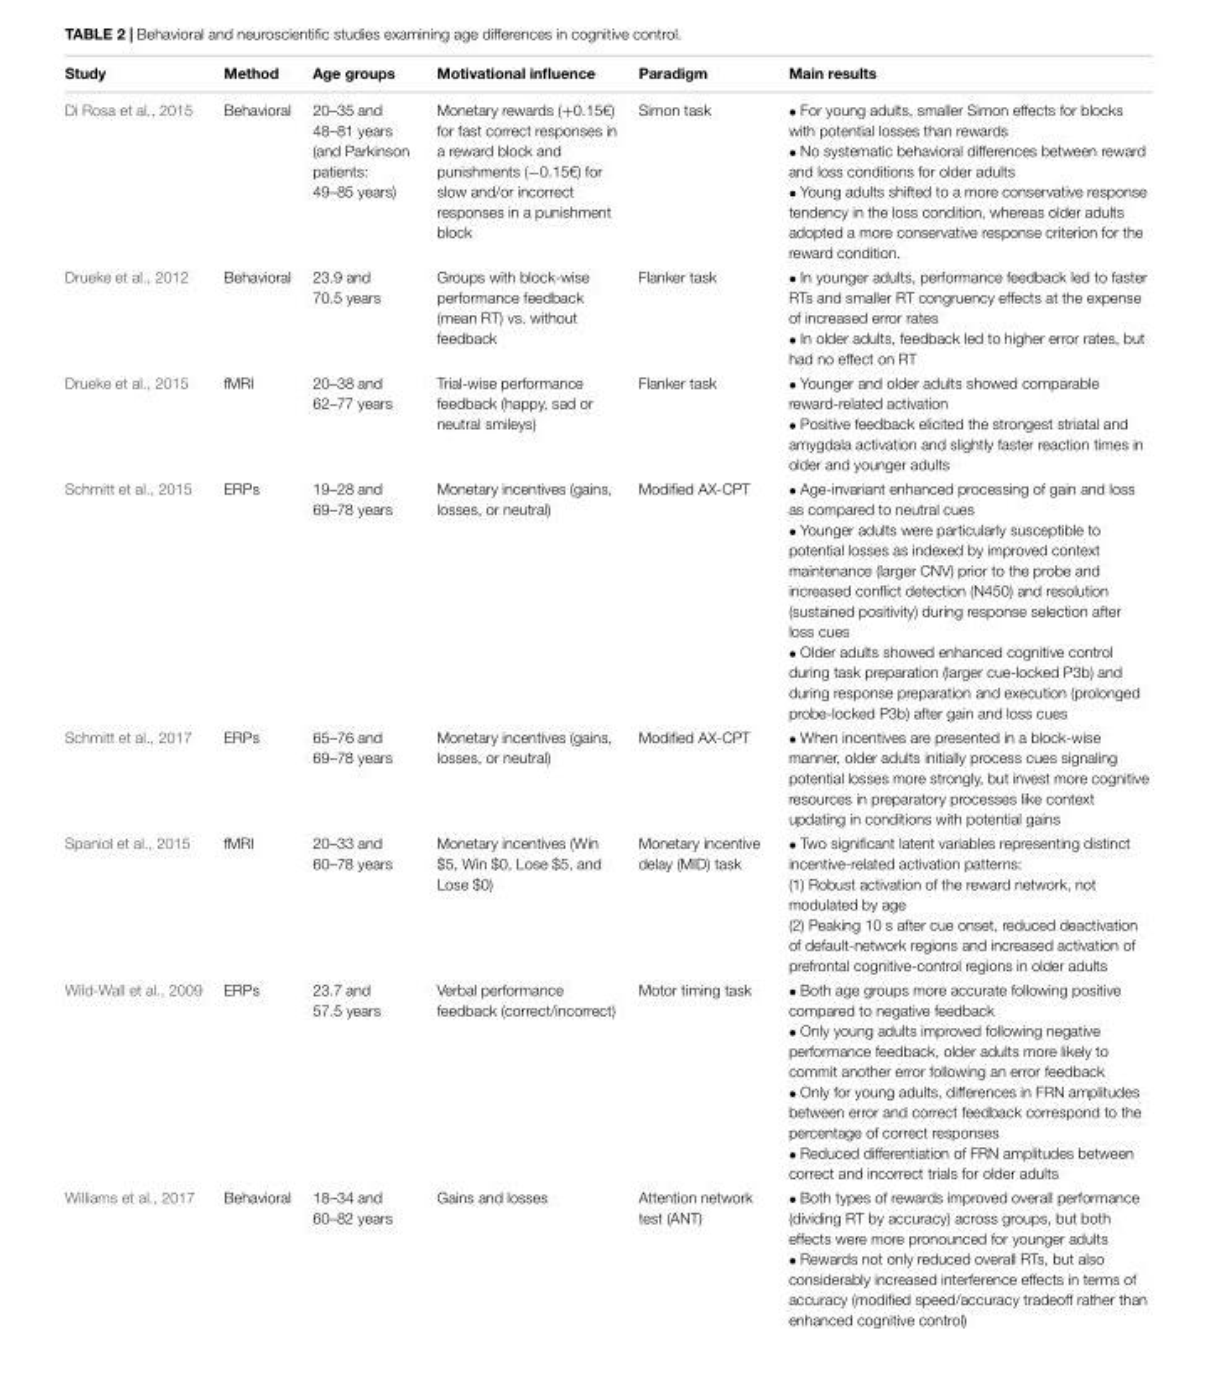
<table><thead><tr><td>Study</td><td>Method</td><td>Age groups</td><td>Motivational influence</td><td>Paradigm</td><td>Main results</td></tr></thead><tbody><tr><td>Di Rosa et al., 2015</td><td>Behavioral</td><td>20–35 and 48–81 years (and Parkinson patients: 49–85 years)</td><td>Monetary rewards (+0.15€) for fast correct responses in a reward block and punishments (−0.15€) for slow and/or incorrect responses in a punishment block</td><td>Simon task</td><td>• For young adults, smaller Simon effects for blocks with potential losses than rewards • No systematic behavioral differences between reward and loss conditions for older adults • Young adults shifted to a more conservative response tendency in the loss condition, whereas older adults adopted a more conservative response criterion for the reward condition.</td></tr><tr><td>Drueke et al., 2012</td><td>Behavioral</td><td>23.9 and 70.5 years</td><td>Groups with block-wise performance feedback (mean RT) vs. without feedback</td><td>Flanker task</td><td>• In younger adults, performance feedback led to faster RTs and smaller RT congruency effects at the expense of increased error rates • In older adults, feedback led to higher error rates, but had no effect on RT</td></tr><tr><td>Drueke et al., 2015</td><td>fMRI</td><td>20–38 and 62–77 years</td><td>Trial-wise performance feedback (happy, sad or neutral smileys)</td><td>Flanker task</td><td>• Younger and older adults showed comparable reward-related activation • Positive feedback elicited the strongest striatal and amygdala activation and slightly faster reaction times in older and younger adults</td></tr><tr><td>Schmitt et al., 2015</td><td>ERPs</td><td>19–28 and 69–78 years</td><td>Monetary incentives (gains, losses, or neutral)</td><td>Modified AX-CPT</td><td>• Age-invariant enhanced processing of gain and loss as compared to neutral cues • Younger adults were particularly susceptible to potential losses as indexed by improved context maintenance (larger CNV) prior to the probe and increased conflict detection (N450) and resolution (sustained positivity) during response selection after loss cues • Older adults showed enhanced cognitive control during task preparation (larger cue-locked P3b) and during response preparation and execution (prolonged probe-locked P3b) after gain and loss cues</td></tr><tr><td>Schmitt et al., 2017</td><td>ERPs</td><td>65–76 and 69–78 years</td><td>Monetary incentives (gains, losses, or neutral)</td><td>Modified AX-CPT</td><td>• When incentives are presented in a block-wise manner, older adults initially process cues signaling potential losses more strongly, but invest more cognitive resources in preparatory processes like context updating in conditions with potential gains</td></tr><tr><td>Spaniol et al., 2015</td><td>fMRI</td><td>20–33 and 60–78 years</td><td>Monetary incentives (Win $5, Win $0, Lose $5, and Lose $0)</td><td>Monetary incentive delay (MID) task</td><td>• Two significant latent variables representing distinct incentive-related activation patterns: (1) Robust activation of the reward network, not modulated by age (2) Peaking 10 s after cue onset, reduced deactivation of default-network regions and increased activation of prefrontal cognitive-control regions in older adults</td></tr><tr><td>Wild-Wall et al., 2009</td><td>ERPs</td><td>23.7 and 57.5 years</td><td>Verbal performance feedback (correct/incorrect)</td><td>Motor timing task</td><td>• Both age groups more accurate following positive compared to negative feedback • Only young adults improved following negative performance feedback, older adults more likely to commit another error following an error feedback • Only for young adults, differences in FRN amplitudes between error and correct feedback correspond to the percentage of correct responses • Reduced differentiation of FRN amplitudes between correct and incorrect trials for older adults</td></tr><tr><td>Williams et al., 2017</td><td>Behavioral</td><td>18–34 and 60–82 years</td><td>Gains and losses</td><td>Attention network test (ANT)</td><td>• Both types of rewards improved overall performance (dividing RT by accuracy) across groups, but both effects were more pronounced for younger adults • Rewards not only reduced overall RTs, but also considerably increased interference effects in terms of accuracy (modified speed/accuracy tradeoff rather than enhanced cognitive control)</td></tr></tbody></table>